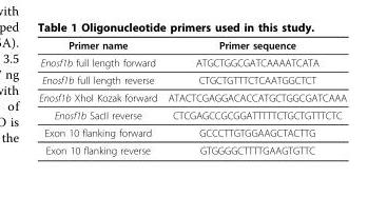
<table><thead><tr><td>Primer name</td><td>Primer sequence</td></tr></thead><tbody><tr><td>Enosf1b full length forward</td><td>ATGCTGGCGATCAAAATCATA</td></tr><tr><td>Enosf1b full length reverse</td><td>CTGCTGTTTCTCAATGGCTCT</td></tr><tr><td>Enosf1b XhoI Kozak forward</td><td>ATACTCGAGGACACCATGCTGGCGATCAAA</td></tr><tr><td>Enosf1b SacII reverse</td><td>CTCGAGCCGCGGATTTTTCTGCTGTTTCTC</td></tr><tr><td>Exon 10 flanking forward</td><td>GCCCTTGTGGAAGCTACTTG</td></tr><tr><td>Exon 10 flanking reverse</td><td>GTGGGGCTTTTGAAGTGTTC</td></tr></tbody></table>